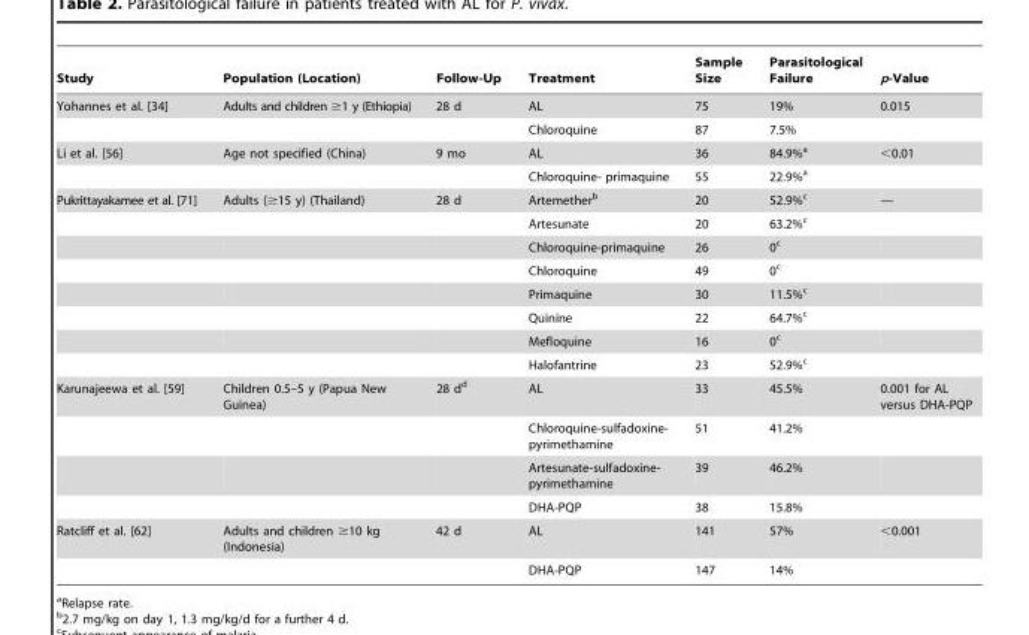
<table><thead><tr><td>Study</td><td>Population (Location)</td><td>Follow-Up</td><td>Treatment</td><td>Sample Size</td><td>Parasitological Failure</td><td>p-Value</td></tr></thead><tbody><tr><td rowspan="2">Yohannes et al. [34]</td><td>Adults and children ≥1 y (Ethiopia)</td><td>28 d</td><td>AL</td><td>75</td><td>19%</td><td>0.015</td></tr><tr><td></td><td></td><td>Chloroquine</td><td>87</td><td>7.5%</td><td></td></tr><tr><td rowspan="2">Li et al. [56]</td><td>Age not specified (China)</td><td>9 mo</td><td>AL</td><td>36</td><td>84.9%<sup>a</sup></td><td>&lt;0.01</td></tr><tr><td></td><td></td><td>Chloroquine- primaquine</td><td>55</td><td>22.9%<sup>a</sup></td><td></td></tr><tr><td rowspan="8">Pukrittayakamee et al. [71]</td><td>Adults (≥15 y) (Thailand)</td><td>28 d</td><td>Artemether<sup>b</sup></td><td>20</td><td>52.9%<sup>c</sup></td><td>—</td></tr><tr><td></td><td></td><td>Artesunate</td><td>20</td><td>63.2%<sup>c</sup></td><td></td></tr><tr><td></td><td></td><td>Chloroquine-primaquine</td><td>26</td><td>0<sup>c</sup></td><td></td></tr><tr><td></td><td></td><td>Chloroquine</td><td>49</td><td>0<sup>c</sup></td><td></td></tr><tr><td></td><td></td><td>Primaquine</td><td>30</td><td>11.5%<sup>c</sup></td><td></td></tr><tr><td></td><td></td><td>Quinine</td><td>22</td><td>64.7%<sup>c</sup></td><td></td></tr><tr><td></td><td></td><td>Mefloquine</td><td>16</td><td>0<sup>c</sup></td><td></td></tr><tr><td></td><td></td><td>Halofantrine</td><td>23</td><td>52.9%<sup>c</sup></td><td></td></tr><tr><td rowspan="4">Karunajeewa et al. [59]</td><td>Children 0.5–5 y (Papua New Guinea)</td><td>28 d<sup>d</sup></td><td>AL</td><td>33</td><td>45.5%</td><td>0.001 for AL versus DHA-PQP</td></tr><tr><td></td><td></td><td>Chloroquine-sulfadoxine- pyrimethamine</td><td>51</td><td>41.2%</td><td></td></tr><tr><td></td><td></td><td>Artesunate-sulfadoxine- pyrimethamine</td><td>39</td><td>46.2%</td><td></td></tr><tr><td></td><td></td><td>DHA-PQP</td><td>38</td><td>15.8%</td><td></td></tr><tr><td rowspan="2">Ratcliff et al. [62]</td><td>Adults and children ≥10 kg (Indonesia)</td><td>42 d</td><td>AL</td><td>141</td><td>57%</td><td>&lt;0.001</td></tr><tr><td></td><td></td><td>DHA-PQP</td><td>147</td><td>14%</td><td></td></tr></tbody></table>